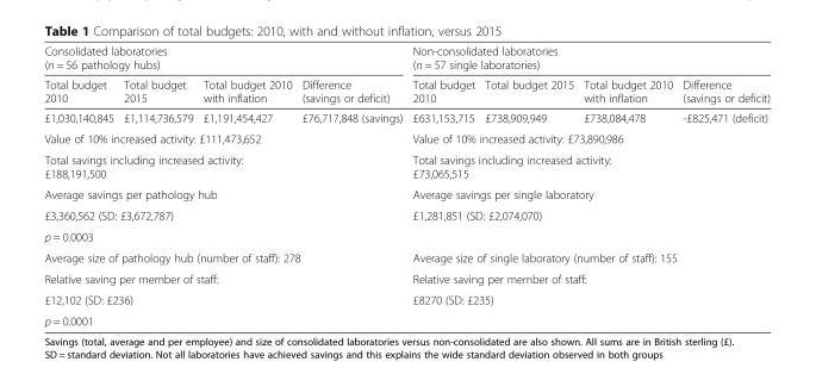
<table><thead><tr><td colspan="4">Consolidated laboratories (n = 56 pathology hubs)</td><td colspan="4">Non-consolidated laboratories (n = 57 single laboratories)</td></tr><tr><td>Total budget 2010</td><td>Total budget 2015</td><td>Total budget 2010 with inflation</td><td>Difference (savings or deficit)</td><td>Total budget 2010</td><td>Total budget 2015</td><td>Total budget 2010 with inflation</td><td>Difference (savings or deficit)</td></tr></thead><tbody><tr><td>£1,030,140,845</td><td>£1,114,736,579</td><td>£1,191,454,427</td><td>£76,717,848 (savings)</td><td>£631,153,715</td><td>£738,909,949</td><td>£738,084,478</td><td>-£825,471 (deficit)</td></tr><tr><td colspan="4">Value of 10% increased activity: £111,473,652</td><td colspan="4">Value of 10% increased activity: £73,890,986</td></tr><tr><td colspan="4">Total savings including increased activity: £188,191,500</td><td colspan="4">Total savings including increased activity: £73,065,515</td></tr><tr><td colspan="4">Average savings per pathology hub</td><td colspan="4">Average savings per single laboratory</td></tr><tr><td colspan="4">£3,360,562 (SD: £3,672,787)</td><td colspan="4">£1,281,851 (SD: £2,074,070)</td></tr><tr><td colspan="8">p = 0.0003</td></tr><tr><td colspan="4">Average size of pathology hub (number of staff): 278</td><td colspan="4">Average size of single laboratory (number of staff): 155</td></tr><tr><td colspan="4">Relative saving per member of staff:</td><td colspan="4">Relative saving per member of staff:</td></tr><tr><td colspan="4">£12,102 (SD: £236)</td><td colspan="4">£8270 (SD: £235)</td></tr><tr><td colspan="8">p = 0.0001</td></tr></tbody></table>